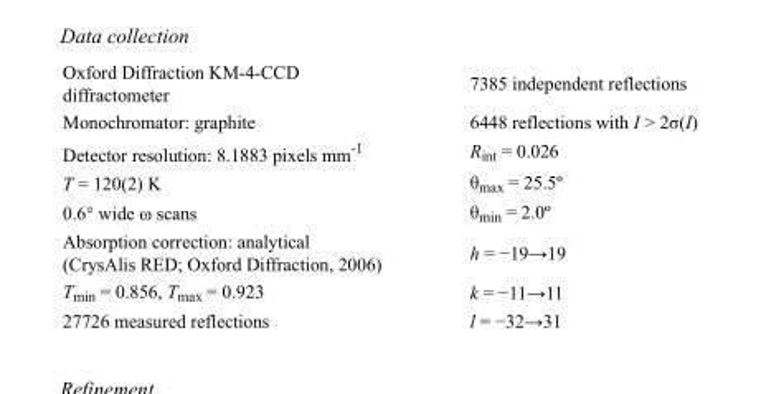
<table><tbody><tr><td>Oxford Diffraction KM-4-CCD diffractometer</td><td>7385 independent reflections</td></tr><tr><td>Monochromator: graphite</td><td>6448 reflections with I &gt; 2σ(I)</td></tr><tr><td>Detector resolution: 8.1883 pixels mm<sup>-1</sup></td><td>R<sub>int</sub> = 0.026</td></tr><tr><td>T = 120(2) K</td><td>θ<sub>max</sub> = 25.5º</td></tr><tr><td>0.6° wide ω scans</td><td>θ<sub>min</sub> = 2.0º</td></tr><tr><td>Absorption correction: analytical (CrysAlis RED; Oxford Diffraction, 2006)</td><td>h = −19→19</td></tr><tr><td>T<sub>min</sub> = 0.856, T<sub>max</sub> = 0.923</td><td>k = −11→11</td></tr><tr><td>27726 measured reflections</td><td>l = −32→31</td></tr></tbody></table>